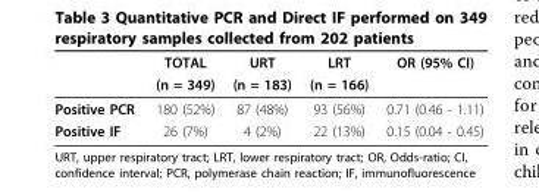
<table><thead><tr><td rowspan="2"></td><td rowspan="2">TOTAL (n = 349)</td><td rowspan="2">URT (n = 183)</td><td rowspan="2">LRT (n = 166)</td><td rowspan="2">OR (95% CI)</td></tr><tr></tr></thead><tbody><tr><td>Positive PCR</td><td>180 (52%)</td><td>87 (48%)</td><td>93 (56%)</td><td>0.71 (0.46 - 1.11)</td></tr><tr><td>Positive IF</td><td>26 (7%)</td><td>4 (2%)</td><td>22 (13%)</td><td>0.15 (0.04 - 0.45)</td></tr></tbody></table>